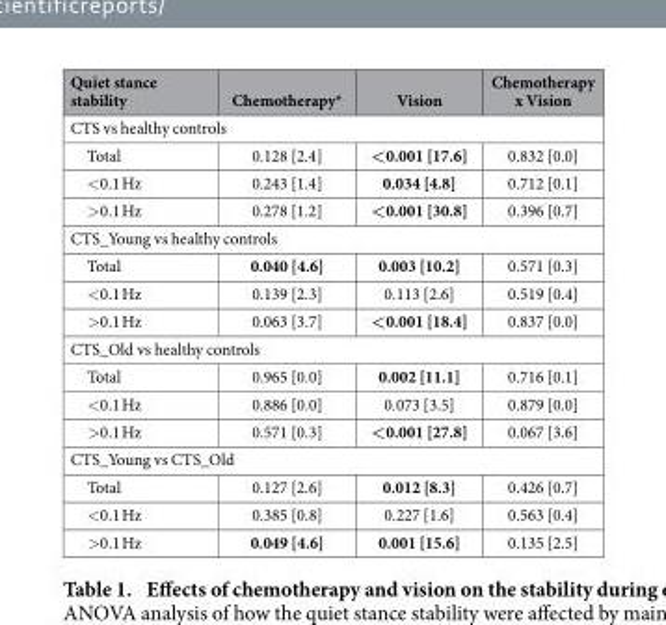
<table><thead><tr><td>Quiet stance stability</td><td>Chemotherapy*</td><td>Vision</td><td>Chemotherapy x Vision</td></tr></thead><tbody><tr><td colspan="4">CTS vs healthy controls</td></tr><tr><td>Total</td><td>0.128 [2.4]</td><td>&lt;0.001 [17.6]</td><td>0.832 [0.0]</td></tr><tr><td>&lt; 0.1 Hz</td><td>0.243 [1.4]</td><td>0.034 [4.8]</td><td>0.712 [0.1]</td></tr><tr><td>&gt; 0.1 Hz</td><td>0.278 [1.2]</td><td>&lt;0.001 [30.8]</td><td>0.396 [0.7]</td></tr><tr><td colspan="4">CTS_Young vs healthy controls</td></tr><tr><td>Total</td><td>0.040 [4.6]</td><td>0.003 [10.2]</td><td>0.571 [0.3]</td></tr><tr><td>&lt; 0.1 Hz</td><td>0.139 [2.3]</td><td>0.113 [2.6]</td><td>0.519 [0.4]</td></tr><tr><td>&gt; 0.1 Hz</td><td>0.063 [3.7]</td><td>&lt;0.001 [18.4]</td><td>0.837 [0.0]</td></tr><tr><td colspan="4">CTS_Old vs healthy controls</td></tr><tr><td>Total</td><td>0.965 [0.0]</td><td>0.002 [11.1]</td><td>0.716 [0.1]</td></tr><tr><td>&lt; 0.1 Hz</td><td>0.886 [0.0]</td><td>0.073 [3.5]</td><td>0.879 [0.0]</td></tr><tr><td>&gt; 0.1 Hz</td><td>0.571 [0.3]</td><td>&lt;0.001 [27.8]</td><td>0.067 [3.6]</td></tr><tr><td colspan="4">CTS_Young vs CTS_Old</td></tr><tr><td>Total</td><td>0.127 [2.6]</td><td>0.012 [8.3]</td><td>0.426 [0.7]</td></tr><tr><td>&lt; 0.1 Hz</td><td>0.385 [0.8]</td><td>0.227 [1.6]</td><td>0.563 [0.4]</td></tr><tr><td>&gt; 0.1 Hz</td><td>0.049 [4.6]</td><td>0.001 [15.6]</td><td>0.135 [2.5]</td></tr></tbody></table>